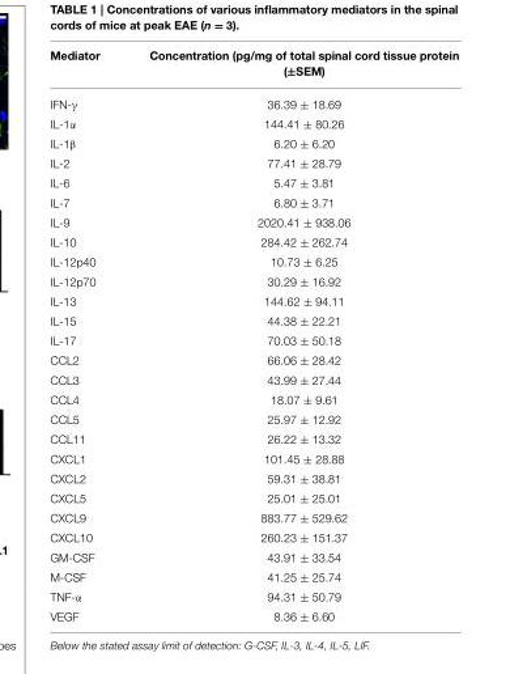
<table><thead><tr><td>Mediator</td><td>Concentration (pg/mg of total spinal cord tissue protein (±SEM)</td></tr></thead><tbody><tr><td>IFN-γ</td><td>36.39 ± 18.69</td></tr><tr><td>IL-1α</td><td>144.41 ± 80.26</td></tr><tr><td>IL-1β</td><td>6.20 ± 6.20</td></tr><tr><td>IL-2</td><td>77.41 ± 28.79</td></tr><tr><td>IL-6</td><td>5.47 ± 3.81</td></tr><tr><td>IL-7</td><td>6.80 ± 3.71</td></tr><tr><td>IL-9</td><td>2020.41 ± 938.06</td></tr><tr><td>IL-10</td><td>284.42 ± 262.74</td></tr><tr><td>IL-12p40</td><td>10.73 ± 6.25</td></tr><tr><td>IL-12p70</td><td>30.29 ± 16.92</td></tr><tr><td>IL-13</td><td>144.62 ± 94.11</td></tr><tr><td>IL-15</td><td>44.38 ± 22.21</td></tr><tr><td>IL-17</td><td>70.03 ± 50.18</td></tr><tr><td>CCL2</td><td>66.06 ± 28.42</td></tr><tr><td>CCL3</td><td>43.99 ± 27.44</td></tr><tr><td>CCL4</td><td>18.07 ± 9.61</td></tr><tr><td>CCL5</td><td>25.97 ± 12.92</td></tr><tr><td>CCL11</td><td>26.22 ± 13.32</td></tr><tr><td>CXCL1</td><td>101.45 ± 28.88</td></tr><tr><td>CXCL2</td><td>59.31 ± 38.81</td></tr><tr><td>CXCL5</td><td>25.01 ± 25.01</td></tr><tr><td>CXCL9</td><td>883.77 ± 529.62</td></tr><tr><td>CXCL10</td><td>260.23 ± 151.37</td></tr><tr><td>GM-CSF</td><td>43.91 ± 33.54</td></tr><tr><td>M-CSF</td><td>41.25 ± 25.74</td></tr><tr><td>TNF-α</td><td>94.31 ± 50.79</td></tr><tr><td>VEGF</td><td>8.36 ± 6.60</td></tr></tbody></table>